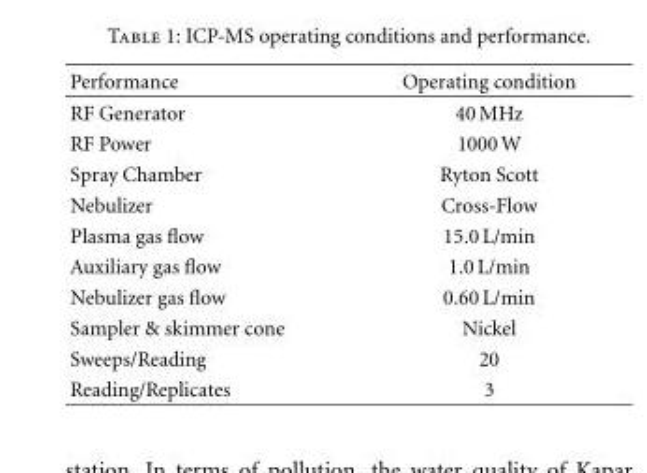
<table><thead><tr><td>Performance</td><td>Operating condition</td></tr></thead><tbody><tr><td>RF Generator</td><td>40 MHz</td></tr><tr><td>RF Power</td><td>1000 W</td></tr><tr><td>Spray Chamber</td><td>Ryton Scott</td></tr><tr><td>Nebulizer</td><td>Cross-Flow</td></tr><tr><td>Plasma gas flow</td><td>15.0 L/min</td></tr><tr><td>Auxiliary gas flow</td><td>1.0 L/min</td></tr><tr><td>Nebulizer gas flow</td><td>0.60 L/min</td></tr><tr><td>Sampler &amp; skimmer cone</td><td>Nickel</td></tr><tr><td>Sweeps/Reading</td><td>20</td></tr><tr><td>Reading/Replicates</td><td>3</td></tr></tbody></table>